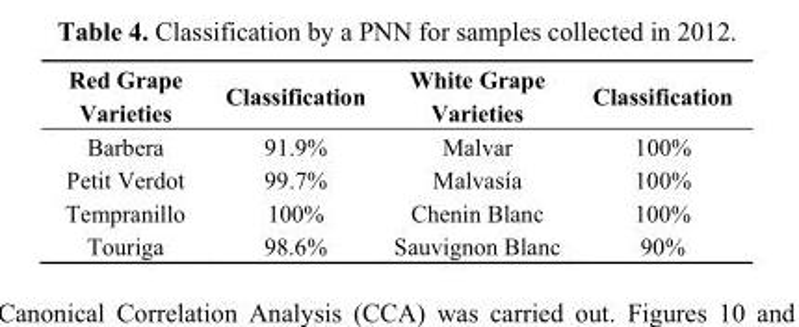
<table><thead><tr><td>Red Grape Varieties</td><td>Classification</td><td>White Grape Varieties</td><td>Classification</td></tr></thead><tbody><tr><td>Barbera</td><td>91.9%</td><td>Malvar</td><td>100%</td></tr><tr><td>Petit Verdot</td><td>99.7%</td><td>Malvasía</td><td>100%</td></tr><tr><td>Tempranillo</td><td>100%</td><td>Chenin Blanc</td><td>100%</td></tr><tr><td>Touriga</td><td>98.6%</td><td>Sauvignon Blanc</td><td>90%</td></tr></tbody></table>